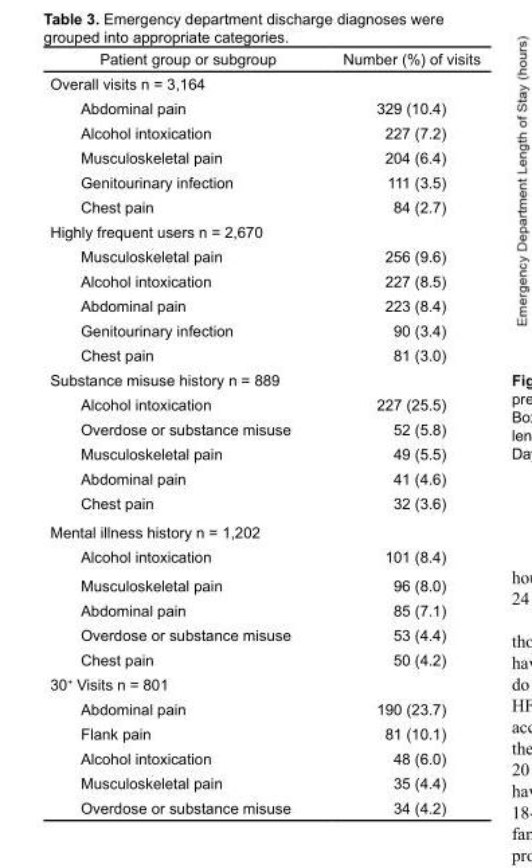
<table><thead><tr><td>Patient group or subgroup</td><td>Number (%) of visits</td></tr></thead><tbody><tr><td colspan="2">Overall visits n = 3,164</td></tr><tr><td>Abdominal pain</td><td>329 (10.4)</td></tr><tr><td>Alcohol intoxication</td><td>227 (7.2)</td></tr><tr><td>Musculoskeletal pain</td><td>204 (6.4)</td></tr><tr><td>Genitourinary infection</td><td>111 (3.5)</td></tr><tr><td>Chest pain</td><td>84 (2.7)</td></tr><tr><td colspan="2">Highly frequent users n = 2,670</td></tr><tr><td>Musculoskeletal pain</td><td>256 (9.6)</td></tr><tr><td>Alcohol intoxication</td><td>227 (8.5)</td></tr><tr><td>Abdominal pain</td><td>223 (8.4)</td></tr><tr><td>Genitourinary infection</td><td>90 (3.4)</td></tr><tr><td>Chest pain</td><td>81 (3.0)</td></tr><tr><td colspan="2">Substance misuse history n = 889</td></tr><tr><td>Alcohol intoxication</td><td>227 (25.5)</td></tr><tr><td>Overdose or substance misuse</td><td>52 (5.8)</td></tr><tr><td>Musculoskeletal pain</td><td>49 (5.5)</td></tr><tr><td>Abdominal pain</td><td>41 (4.6)</td></tr><tr><td>Chest pain</td><td>32 (3.6)</td></tr><tr><td colspan="2">Mental illness history n = 1,202</td></tr><tr><td>Alcohol intoxication</td><td>101 (8.4)</td></tr><tr><td>Musculoskeletal pain</td><td>96 (8.0)</td></tr><tr><td>Abdominal pain</td><td>85 (7.1)</td></tr><tr><td>Overdose or substance misuse</td><td>53 (4.4)</td></tr><tr><td>Chest pain</td><td>50 (4.2)</td></tr><tr><td colspan="2">30<sup>+</sup> Visits n = 801</td></tr><tr><td>Abdominal pain</td><td>190 (23.7)</td></tr><tr><td>Flank pain</td><td>81 (10.1)</td></tr><tr><td>Alcohol intoxication</td><td>48 (6.0)</td></tr><tr><td>Musculoskeletal pain</td><td>35 (4.4)</td></tr><tr><td>Overdose or substance misuse</td><td>34 (4.2)</td></tr></tbody></table>